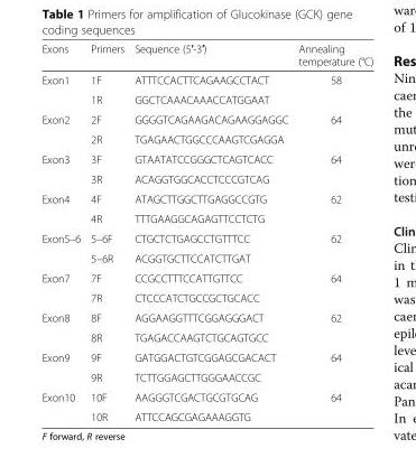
<table><thead><tr><td>Exons</td><td>Primers</td><td>Sequence (5′-3′)</td><td>Annealing temperature (°C)</td></tr></thead><tbody><tr><td rowspan="2">Exon1</td><td>1F</td><td>ATTTCCACTTCAGAAGCCTACT</td><td>58</td></tr><tr><td>1R</td><td>GGCTCAAACAAACCATGGAAT</td><td></td></tr><tr><td rowspan="2">Exon2</td><td>2F</td><td>GGGGTCAGAAGACAGAAGGAGGC</td><td>64</td></tr><tr><td>2R</td><td>TGAGAACTGGCCCAAGTCGAGGA</td><td></td></tr><tr><td rowspan="2">Exon3</td><td>3F</td><td>GTAATATCCGGGCTCAGTCACC</td><td>64</td></tr><tr><td>3R</td><td>ACAGGTGGCACCTCCCGTCAG</td><td></td></tr><tr><td rowspan="2">Exon4</td><td>4F</td><td>ATAGCTTGGCTTGAGGCCGTG</td><td>62</td></tr><tr><td>4R</td><td>TTTGAAGGCAGAGTTCCTCTG</td><td></td></tr><tr><td rowspan="2">Exon5–6</td><td>5–6F</td><td>CTGCTCTGAGCCTGTTTCC</td><td>62</td></tr><tr><td>5–6R</td><td>ACGGTGCTTCCATCTTGAT</td><td></td></tr><tr><td rowspan="2">Exon7</td><td>7F</td><td>CCGCCTTTCCATTGTTCC</td><td>64</td></tr><tr><td>7R</td><td>CTCCCATCTGCCGCTGCACC</td><td></td></tr><tr><td rowspan="2">Exon8</td><td>8F</td><td>AGGAAGGTTTCGGAGGGACT</td><td>62</td></tr><tr><td>8R</td><td>TGAGACCAAGTCTGCAGTGCC</td><td></td></tr><tr><td rowspan="2">Exon9</td><td>9F</td><td>GATGGACTGTCGGAGCGACACT</td><td>64</td></tr><tr><td>9R</td><td>TCTTGGAGCTTGGGAACCGC</td><td></td></tr><tr><td rowspan="2">Exon10</td><td>10F</td><td>AAGGGTCGACTGCGTGCAG</td><td>64</td></tr><tr><td>10R</td><td>ATTCCAGCGAGAAAGGTG</td><td></td></tr></tbody></table>